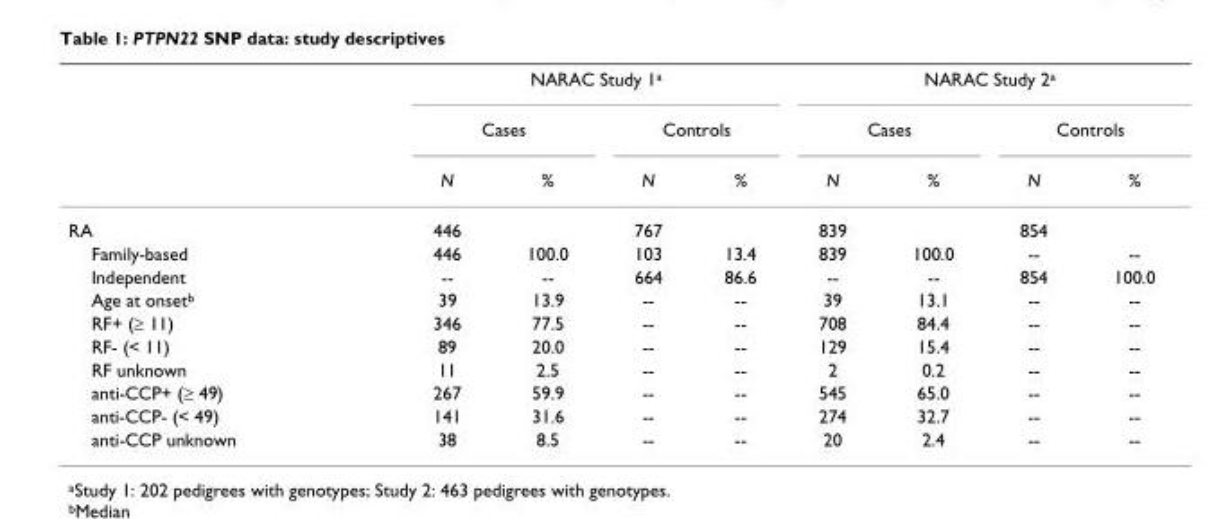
<table><thead><tr><td rowspan="3"></td><td colspan="4">NARAC Study 1<sup>a</sup></td><td colspan="4">NARAC Study 2<sup>a</sup></td></tr><tr><td colspan="2">Cases</td><td colspan="2">Controls</td><td colspan="2">Cases</td><td colspan="2">Controls</td></tr><tr><td>N</td><td>%</td><td>N</td><td>%</td><td>N</td><td>%</td><td>N</td><td>%</td></tr></thead><tbody><tr><td>RA</td><td>446</td><td></td><td>767</td><td></td><td>839</td><td></td><td>854</td><td></td></tr><tr><td>Family-based</td><td>446</td><td>100.0</td><td>103</td><td>13.4</td><td>839</td><td>100.0</td><td>--</td><td>--</td></tr><tr><td>Independent</td><td>--</td><td>--</td><td>664</td><td>86.6</td><td>--</td><td>--</td><td>854</td><td>100.0</td></tr><tr><td>Age at onset<sup>b</sup></td><td>39</td><td>13.9</td><td>--</td><td>--</td><td>39</td><td>13.1</td><td>--</td><td>--</td></tr><tr><td>RF+ (≥ 11)</td><td>346</td><td>77.5</td><td>--</td><td>--</td><td>708</td><td>84.4</td><td>--</td><td>--</td></tr><tr><td>RF- (&lt; 11)</td><td>89</td><td>20.0</td><td>--</td><td>--</td><td>129</td><td>15.4</td><td>--</td><td>--</td></tr><tr><td>RF unknown</td><td>11</td><td>2.5</td><td>--</td><td>--</td><td>2</td><td>0.2</td><td>--</td><td>--</td></tr><tr><td>anti-CCP+ (≥ 49)</td><td>267</td><td>59.9</td><td>--</td><td>--</td><td>545</td><td>65.0</td><td>--</td><td>--</td></tr><tr><td>anti-CCP- (&lt; 49)</td><td>141</td><td>31.6</td><td>--</td><td>--</td><td>274</td><td>32.7</td><td>--</td><td>--</td></tr><tr><td>anti-CCP unknown</td><td>38</td><td>8.5</td><td>--</td><td>--</td><td>20</td><td>2.4</td><td>--</td><td>--</td></tr></tbody></table>